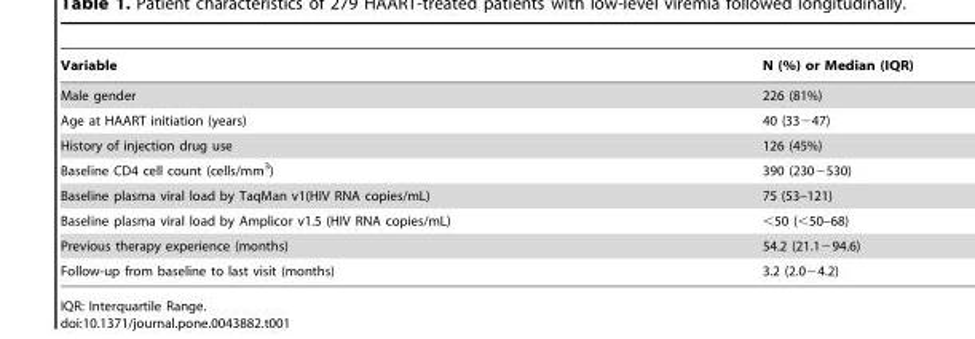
<table><thead><tr><td>Variable</td><td>N (%) or Median (IQR)</td></tr></thead><tbody><tr><td>Male gender</td><td>226 (81%)</td></tr><tr><td>Age at HAART initiation (years)</td><td>40 (33−47)</td></tr><tr><td>History of injection drug use</td><td>126 (45%)</td></tr><tr><td>Baseline CD4 cell count (cells/mm<sup>3</sup>)</td><td>390 (230−530)</td></tr><tr><td>Baseline plasma viral load by TaqMan v1(HIV RNA copies/mL)</td><td>75 (53–121)</td></tr><tr><td>Baseline plasma viral load by Amplicor v1.5 (HIV RNA copies/mL)</td><td>&lt;50 (&lt;50–68)</td></tr><tr><td>Previous therapy experience (months)</td><td>54.2 (21.1−94.6)</td></tr><tr><td>Follow-up from baseline to last visit (months)</td><td>3.2 (2.0−4.2)</td></tr></tbody></table>